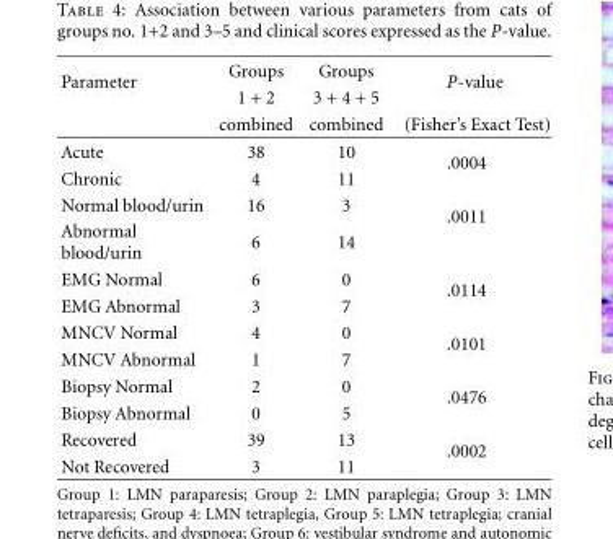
<table><thead><tr><td rowspan="3">Parameter</td><td rowspan="3">Groups 1 + 2 combined</td><td rowspan="3">Groups 3 + 4 + 5 combined</td><td rowspan="3">P-value (Fisher’s Exact Test)</td></tr><tr></tr><tr></tr></thead><tbody><tr><td>Acute</td><td>38</td><td>10</td><td rowspan="2">.0004</td></tr><tr><td>Chronic</td><td>4</td><td>11</td></tr><tr><td>Normal blood/urin</td><td>16</td><td>3</td><td rowspan="2">.0011</td></tr><tr><td>Abnormal blood/urin</td><td>6</td><td>14</td></tr><tr><td>EMG Normal</td><td>6</td><td>0</td><td rowspan="2">.0114</td></tr><tr><td>EMG Abnormal</td><td>3</td><td>7</td></tr><tr><td>MNCV Normal</td><td>4</td><td>0</td><td rowspan="2">.0101</td></tr><tr><td>MNCV Abnormal</td><td>1</td><td>7</td></tr><tr><td>Biopsy Normal</td><td>2</td><td>0</td><td rowspan="2">.0476</td></tr><tr><td>Biopsy Abnormal</td><td>0</td><td>5</td></tr><tr><td>Recovered</td><td>39</td><td>13</td><td rowspan="2">.0002</td></tr><tr><td>Not Recovered</td><td>3</td><td>11</td></tr></tbody></table>